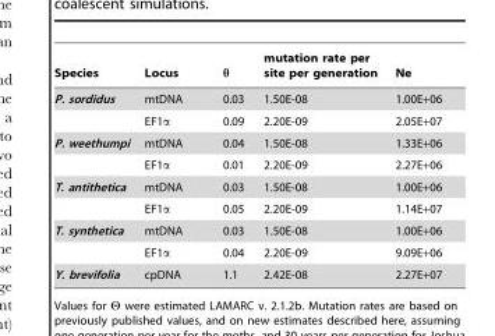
<table><thead><tr><td>Species</td><td>Locus</td><td>θ</td><td>mutation rate per site per generation</td><td>Ne</td></tr></thead><tbody><tr><td rowspan="2">P. sordidus</td><td>mtDNA</td><td>0.03</td><td>1.50E-08</td><td>1.00E+06</td></tr><tr><td>EF1α</td><td>0.09</td><td>2.20E-09</td><td>2.05E+07</td></tr><tr><td rowspan="2">P. weethumpi</td><td>mtDNA</td><td>0.04</td><td>1.50E-08</td><td>1.33E+06</td></tr><tr><td>EF1α</td><td>0.01</td><td>2.20E-09</td><td>2.27E+06</td></tr><tr><td rowspan="2">T. antithetica</td><td>mtDNA</td><td>0.03</td><td>1.50E-08</td><td>1.00E+06</td></tr><tr><td>EF1α</td><td>0.05</td><td>2.20E-09</td><td>1.14E+07</td></tr><tr><td rowspan="2">T. synthetica</td><td>mtDNA</td><td>0.03</td><td>1.50E-08</td><td>1.00E+06</td></tr><tr><td>EF1α</td><td>0.04</td><td>2.20E-09</td><td>9.09E+06</td></tr><tr><td>Y. brevifolia</td><td>cpDNA</td><td>1.1</td><td>2.42E-08</td><td>2.27E+07</td></tr></tbody></table>